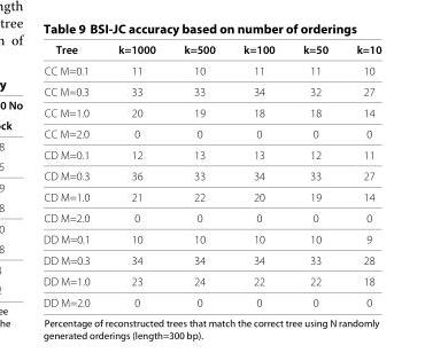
<table><thead><tr><td>Tree</td><td>k=1000</td><td>k=500</td><td>k=100</td><td>k=50</td><td>k=10</td></tr></thead><tbody><tr><td>CC M=0.1</td><td>11</td><td>10</td><td>11</td><td>11</td><td>10</td></tr><tr><td>CC M=0.3</td><td>33</td><td>33</td><td>34</td><td>32</td><td>27</td></tr><tr><td>CC M=1.0</td><td>20</td><td>19</td><td>18</td><td>18</td><td>14</td></tr><tr><td>CC M=2.0</td><td>0</td><td>0</td><td>0</td><td>0</td><td>0</td></tr><tr><td>CD M=0.1</td><td>12</td><td>13</td><td>13</td><td>12</td><td>11</td></tr><tr><td>CD M=0.3</td><td>36</td><td>33</td><td>34</td><td>33</td><td>27</td></tr><tr><td>CD M=1.0</td><td>21</td><td>22</td><td>20</td><td>19</td><td>14</td></tr><tr><td>CD M=2.0</td><td>0</td><td>0</td><td>0</td><td>0</td><td>0</td></tr><tr><td>DD M=0.1</td><td>10</td><td>10</td><td>10</td><td>10</td><td>9</td></tr><tr><td>DD M=0.3</td><td>34</td><td>34</td><td>34</td><td>33</td><td>28</td></tr><tr><td>DD M=1.0</td><td>23</td><td>24</td><td>22</td><td>22</td><td>18</td></tr><tr><td>DD M=2.0</td><td>0</td><td>0</td><td>0</td><td>0</td><td>0</td></tr></tbody></table>